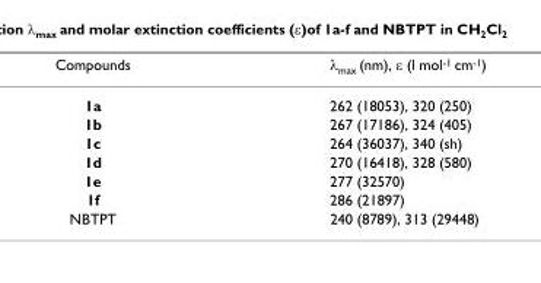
<table><thead><tr><td>Compounds</td><td>λ<sub>max</sub> (nm), ε (l mol<sup>-1</sup> cm<sup>-1</sup>)</td></tr></thead><tbody><tr><td>1a</td><td>262 (18053), 320 (250)</td></tr><tr><td>1b</td><td>267 (17186), 324 (405)</td></tr><tr><td>1c</td><td>264 (36037), 340 (sh)</td></tr><tr><td>1d</td><td>270 (16418), 328 (580)</td></tr><tr><td>1e</td><td>277 (32570)</td></tr><tr><td>1f</td><td>286 (21897)</td></tr><tr><td>NBTPT</td><td>240 (8789), 313 (29448)</td></tr></tbody></table>